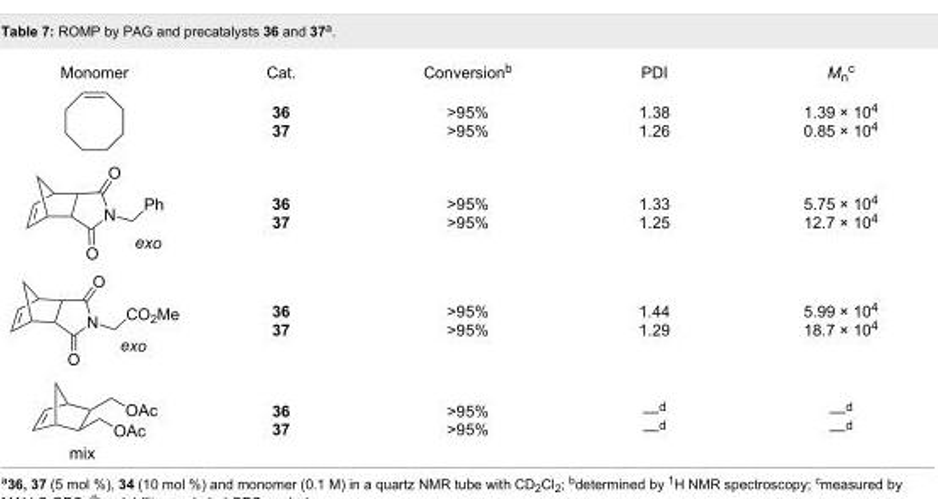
<table><tbody><tr><td rowspan="5">Monomer</td><td>Cat.</td><td>Conversion<sup>b</sup></td><td>PDI</td><td>M<sub>n</sub><sup>c</sup></td></tr><tr><td>36 37</td><td>&gt;95% &gt;95%</td><td>1.38 1.26</td><td>1.39 × 10<sup>4</sup> 0.85 × 10<sup>4</sup></td></tr><tr><td>36 37</td><td>&gt;95% &gt;95%</td><td>1.33 1.25</td><td>5.75 × 10<sup>4</sup> 12.7 × 10<sup>4</sup></td></tr><tr><td>36 37</td><td>&gt;95% &gt;95%</td><td>1.44 1.29</td><td>5.99 × 10<sup>4</sup> 18.7 × 10<sup>4</sup></td></tr><tr><td>36 37</td><td>&gt;95% &gt;95%</td><td>—<sup>d</sup> —<sup>d</sup></td><td>—<sup>d</sup> —<sup>d</sup></td></tr></tbody></table>